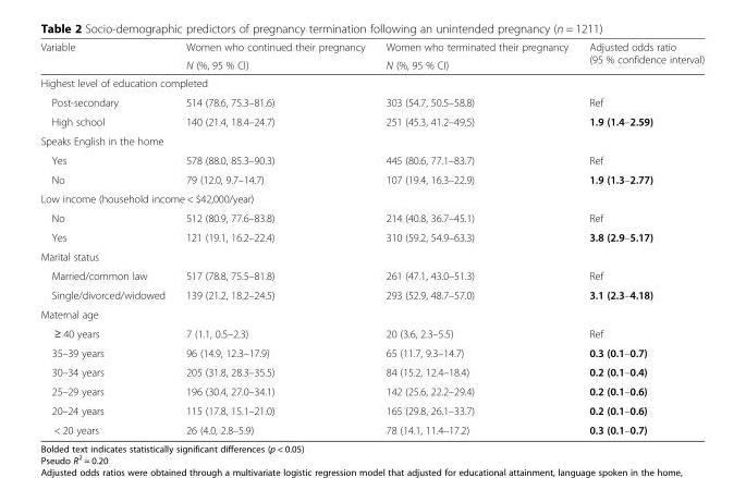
<table><thead><tr><td rowspan="2">Variable</td><td rowspan="2">Women who continued their pregnancy N (%, 95 % CI)</td><td rowspan="2">Women who terminated their pregnancy N (%, 95 % CI)</td><td rowspan="2">Adjusted odds ratio (95 % confidence interval)</td></tr><tr></tr></thead><tbody><tr><td colspan="4">Highest level of education completed</td></tr><tr><td>Post-secondary</td><td>514 (78.6, 75.3–81.6)</td><td>303 (54.7, 50.5–58.8)</td><td>Ref</td></tr><tr><td>High school</td><td>140 (21.4, 18.4–24.7)</td><td>251 (45.3, 41.2–49.5)</td><td>1.9 (1.4–2.59)</td></tr><tr><td colspan="4">Speaks English in the home</td></tr><tr><td>Yes</td><td>578 (88.0, 85.3–90.3)</td><td>445 (80.6, 77.1–83.7)</td><td>Ref</td></tr><tr><td>No</td><td>79 (12.0, 9.7–14.7)</td><td>107 (19.4, 16.3–22.9)</td><td>1.9 (1.3–2.77)</td></tr><tr><td colspan="4">Low income (household income &lt; $42,000/year)</td></tr><tr><td>No</td><td>512 (80.9, 77.6–83.8)</td><td>214 (40.8, 36.7–45.1)</td><td>Ref</td></tr><tr><td>Yes</td><td>121 (19.1, 16.2–22.4)</td><td>310 (59.2, 54.9–63.3)</td><td>3.8 (2.9–5.17)</td></tr><tr><td colspan="4">Marital status</td></tr><tr><td>Married/common law</td><td>517 (78.8, 75.5–81.8)</td><td>261 (47.1, 43.0–51.3)</td><td>Ref</td></tr><tr><td>Single/divorced/widowed</td><td>139 (21.2, 18.2–24.5)</td><td>293 (52.9, 48.7–57.0)</td><td>3.1 (2.3–4.18)</td></tr><tr><td colspan="4">Maternal age</td></tr><tr><td>≥ 40 years</td><td>7 (1.1, 0.5–2.3)</td><td>20 (3.6, 2.3–5.5)</td><td>Ref</td></tr><tr><td>35–39 years</td><td>96 (14.9, 12.3–17.9)</td><td>65 (11.7, 9.3–14.7)</td><td>0.3 (0.1–0.7)</td></tr><tr><td>30–34 years</td><td>205 (31.8, 28.3–35.5)</td><td>84 (15.2, 12.4–18.4)</td><td>0.2 (0.1–0.4)</td></tr><tr><td>25–29 years</td><td>196 (30.4, 27.0–34.1)</td><td>142 (25.6, 22.2–29.4)</td><td>0.2 (0.1–0.6)</td></tr><tr><td>20–24 years</td><td>115 (17.8, 15.1–21.0)</td><td>165 (29.8, 26.1–33.7)</td><td>0.2 (0.1–0.6)</td></tr><tr><td>&lt; 20 years</td><td>26 (4.0, 2.8–5.9)</td><td>78 (14.1, 11.4–17.2)</td><td>0.3 (0.1–0.7)</td></tr></tbody></table>